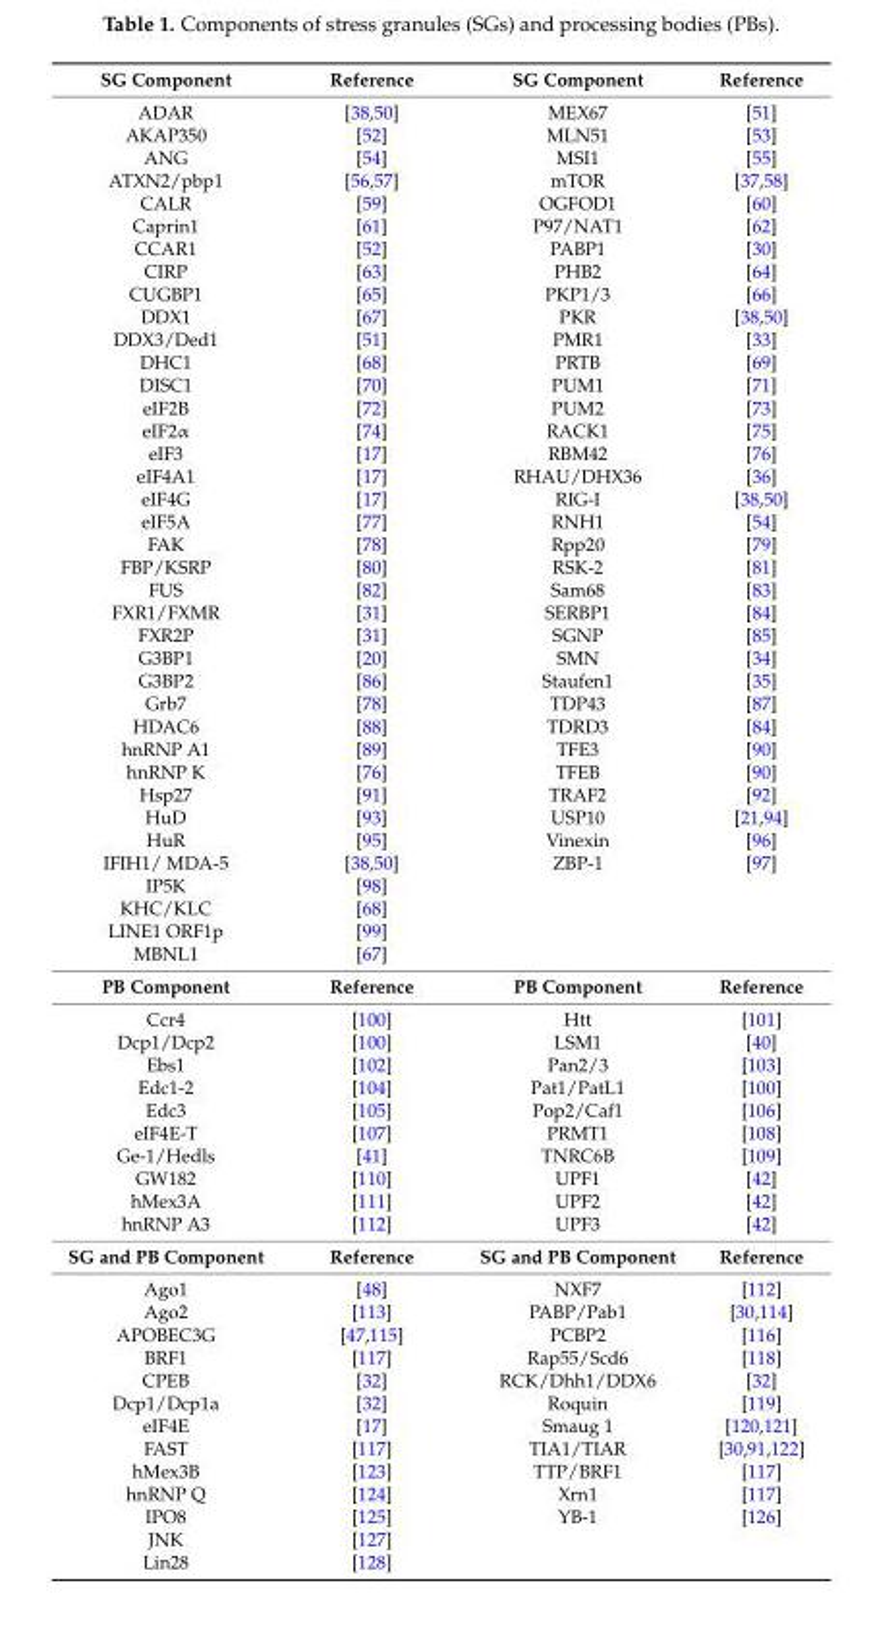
<table><tbody><tr><td>SG Component</td><td>Reference</td><td>SG Component</td><td>Reference</td></tr><tr><td>ADAR</td><td>[38,50]</td><td>MEX67</td><td>[51]</td></tr><tr><td>AKAP350</td><td>[52]</td><td>MLN51</td><td>[53]</td></tr><tr><td>ANG</td><td>[54]</td><td>MSI1</td><td>[55]</td></tr><tr><td>ATXN2/pbp1</td><td>[56,57]</td><td>mTOR</td><td>[37,58]</td></tr><tr><td>CALR</td><td>[59]</td><td>OGFOD1</td><td>[60]</td></tr><tr><td>Caprin1</td><td>[61]</td><td>P97/NAT1</td><td>[62]</td></tr><tr><td>CCAR1</td><td>[52]</td><td>PABP1</td><td>[30]</td></tr><tr><td>CIRP</td><td>[63]</td><td>PHB2</td><td>[64]</td></tr><tr><td>CUGBP1</td><td>[65]</td><td>PKP1/3</td><td>[66]</td></tr><tr><td>DDX1</td><td>[67]</td><td>PKR</td><td>[38,50]</td></tr><tr><td>DDX3/Ded1</td><td>[51]</td><td>PMR1</td><td>[33]</td></tr><tr><td>DHC1</td><td>[68]</td><td>PRTB</td><td>[69]</td></tr><tr><td>DISC1</td><td>[70]</td><td>PUM1</td><td>[71]</td></tr><tr><td>eIF2B</td><td>[72]</td><td>PUM2</td><td>[73]</td></tr><tr><td>eIF2α</td><td>[74]</td><td>RACK1</td><td>[75]</td></tr><tr><td>eIF3</td><td>[17]</td><td>RBM42</td><td>[76]</td></tr><tr><td>eIF4A1</td><td>[17]</td><td>RHAU/DHX36</td><td>[36]</td></tr><tr><td>eIF4G</td><td>[17]</td><td>RIG-I</td><td>[38,50]</td></tr><tr><td>eIF5A</td><td>[77]</td><td>RNH1</td><td>[54]</td></tr><tr><td>FAK</td><td>[78]</td><td>Rpp20</td><td>[79]</td></tr><tr><td>FBP/KSRP</td><td>[80]</td><td>RSK-2</td><td>[81]</td></tr><tr><td>FUS</td><td>[82]</td><td>Sam68</td><td>[83]</td></tr><tr><td>FXR1/FXMR</td><td>[31]</td><td>SERBP1</td><td>[84]</td></tr><tr><td>FXR2P</td><td>[31]</td><td>SGNP</td><td>[85]</td></tr><tr><td>G3BP1</td><td>[20]</td><td>SMN</td><td>[34]</td></tr><tr><td>G3BP2</td><td>[86]</td><td>Staufen1</td><td>[35]</td></tr><tr><td>Grb7</td><td>[78]</td><td>TDP43</td><td>[87]</td></tr><tr><td>HDAC6</td><td>[88]</td><td>TDRD3</td><td>[84]</td></tr><tr><td>hnRNP A1</td><td>[89]</td><td>TFE3</td><td>[90]</td></tr><tr><td>hnRNP K</td><td>[76]</td><td>TFEB</td><td>[90]</td></tr><tr><td>Hsp27</td><td>[91]</td><td>TRAF2</td><td>[92]</td></tr><tr><td>HuD</td><td>[93]</td><td>USP10</td><td>[21,94]</td></tr><tr><td>HuR</td><td>[95]</td><td>Vinexin</td><td>[96]</td></tr><tr><td>IFIH1/ MDA-5</td><td>[38,50]</td><td>ZBP-1</td><td>[97]</td></tr><tr><td>IP5K</td><td>[98]</td><td></td><td></td></tr><tr><td>KHC/KLC</td><td>[68]</td><td></td><td></td></tr><tr><td>LINE1 ORF1p</td><td>[99]</td><td></td><td></td></tr><tr><td>MBNL1</td><td>[67]</td><td></td><td></td></tr><tr><td>PB Component</td><td>Reference</td><td>PB Component</td><td>Reference</td></tr><tr><td>Ccr4</td><td>[100]</td><td>Htt</td><td>[101]</td></tr><tr><td>Dcp1/Dcp2</td><td>[100]</td><td>LSM1</td><td>[40]</td></tr><tr><td>Ebs1</td><td>[102]</td><td>Pan2/3</td><td>[103]</td></tr><tr><td>Edc1-2</td><td>[104]</td><td>Pat1/PatL1</td><td>[100]</td></tr><tr><td>Edc3</td><td>[105]</td><td>Pop2/Caf1</td><td>[106]</td></tr><tr><td>eIF4E-T</td><td>[107]</td><td>PRMT1</td><td>[108]</td></tr><tr><td>Ge-1/Hedls</td><td>[41]</td><td>TNRC6B</td><td>[109]</td></tr><tr><td>GW182</td><td>[110]</td><td>UPF1</td><td>[42]</td></tr><tr><td>hMex3A</td><td>[111]</td><td>UPF2</td><td>[42]</td></tr><tr><td>hnRNP A3</td><td>[112]</td><td>UPF3</td><td>[42]</td></tr><tr><td>SG and PB Component</td><td>Reference</td><td>SG and PB Component</td><td>Reference</td></tr><tr><td>Ago1</td><td>[48]</td><td>NXF7</td><td>[112]</td></tr><tr><td>Ago2</td><td>[113]</td><td>PABP/Pab1</td><td>[30,114]</td></tr><tr><td>APOBEC3G</td><td>[47,115]</td><td>PCBP2</td><td>[116]</td></tr><tr><td>BRF1</td><td>[117]</td><td>Rap55/Scd6</td><td>[118]</td></tr><tr><td>CPEB</td><td>[32]</td><td>RCK/Dhh1/DDX6</td><td>[32]</td></tr><tr><td>Dcp1/Dcp1a</td><td>[32]</td><td>Roquin</td><td>[119]</td></tr><tr><td>eIF4E</td><td>[17]</td><td>Smaug 1</td><td>[120,121]</td></tr><tr><td>FAST</td><td>[117]</td><td>TIA1/TIAR</td><td>[30,91,122]</td></tr><tr><td>hMex3B</td><td>[123]</td><td>TTP/BRF1</td><td>[117]</td></tr><tr><td>hnRNP Q</td><td>[124]</td><td>Xrn1</td><td>[117]</td></tr><tr><td>IPO8</td><td>[125]</td><td>YB-1</td><td>[126]</td></tr><tr><td>JNK</td><td>[127]</td><td></td><td></td></tr><tr><td>Lin28</td><td>[128]</td><td></td><td></td></tr></tbody></table>